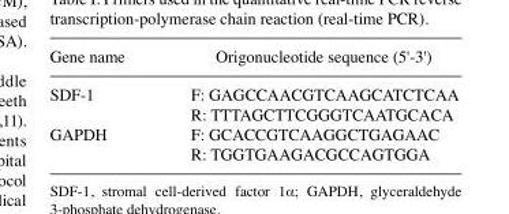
<table><thead><tr><td>Gene name</td><td>Origonucleotide sequence (5&#x27;-3&#x27;)</td></tr></thead><tbody><tr><td>SDF-1</td><td>F: GAGCCAACGTCAAGCATCTCAA R: TTTAGCTTCGGGTCAATGCACA</td></tr><tr><td>GAPDH</td><td>F: GCACCGTCAAGGCTGAGAAC R: TGGTGAAGACGCCAGTGGA</td></tr></tbody></table>